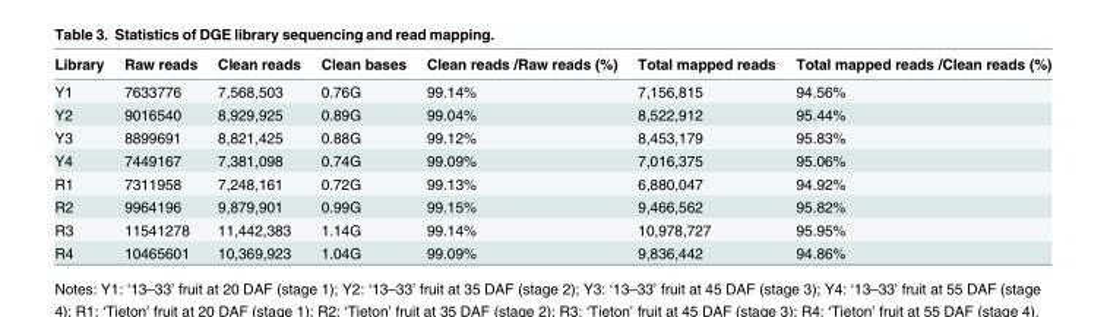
<table><thead><tr><td>Library</td><td>Raw reads</td><td>Clean reads</td><td>Clean bases</td><td>Clean reads /Raw reads (%)</td><td>Total mapped reads</td><td>Total mapped reads /Clean reads (%)</td></tr></thead><tbody><tr><td>Y1</td><td>7633776</td><td>7,568,503</td><td>0.76G</td><td>99.14%</td><td>7,156,815</td><td>94.56%</td></tr><tr><td>Y2</td><td>9016540</td><td>8,929,925</td><td>0.89G</td><td>99.04%</td><td>8,522,912</td><td>95.44%</td></tr><tr><td>Y3</td><td>8899691</td><td>8,821,425</td><td>0.88G</td><td>99.12%</td><td>8,453,179</td><td>95.83%</td></tr><tr><td>Y4</td><td>7449167</td><td>7,381,098</td><td>0.74G</td><td>99.09%</td><td>7,016,375</td><td>95.06%</td></tr><tr><td>R1</td><td>7311958</td><td>7,248,161</td><td>0.72G</td><td>99.13%</td><td>6,880,047</td><td>94.92%</td></tr><tr><td>R2</td><td>9964196</td><td>9,879,901</td><td>0.99G</td><td>99.15%</td><td>9,466,562</td><td>95.82%</td></tr><tr><td>R3</td><td>11541278</td><td>11,442,383</td><td>1.14G</td><td>99.14%</td><td>10,978,727</td><td>95.95%</td></tr><tr><td>R4</td><td>10465601</td><td>10,369,923</td><td>1.04G</td><td>99.09%</td><td>9,836,442</td><td>94.86%</td></tr></tbody></table>